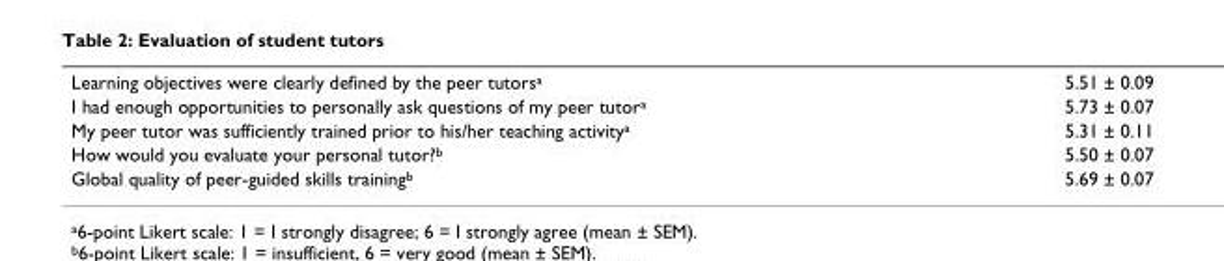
<table><tbody><tr><td>Learning objectives were clearly defined by the peer tutors<sup>a</sup></td><td>5.51 ± 0.09</td></tr><tr><td>I had enough opportunities to personally ask questions of my peer tutor<sup>a</sup></td><td>5.73 ± 0.07</td></tr><tr><td>My peer tutor was sufficiently trained prior to his/her teaching activity<sup>a</sup></td><td>5.31 ± 0.11</td></tr><tr><td>How would you evaluate your personal tutor?<sup>b</sup></td><td>5.50 ± 0.07</td></tr><tr><td>Global quality of peer-guided skills training<sup>b</sup></td><td>5.69 ± 0.07</td></tr></tbody></table>